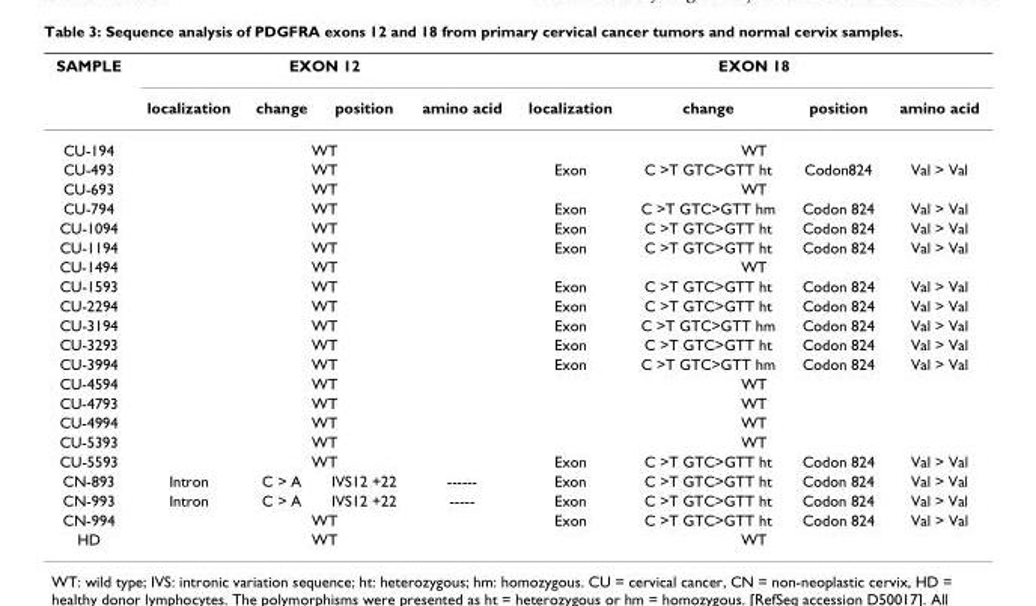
<table><thead><tr><td rowspan="2">SAMPLE</td><td colspan="4">EXON 12</td><td colspan="4">EXON 18</td></tr><tr><td>localization</td><td>change</td><td>position</td><td>amino acid</td><td>localization</td><td>change</td><td>position</td><td>amino acid</td></tr></thead><tbody><tr><td>CU-194</td><td colspan="4">WT</td><td colspan="4">WT</td></tr><tr><td>CU-493</td><td colspan="4">WT</td><td>Exon</td><td>C &gt;T GTC&gt;GTT ht</td><td>Codon824</td><td>Val &gt; Val</td></tr><tr><td>CU-693</td><td colspan="4">WT</td><td colspan="4">WT</td></tr><tr><td>CU-794</td><td colspan="4">WT</td><td>Exon</td><td>C &gt;T GTC&gt;GTT hm</td><td>Codon 824</td><td>Val &gt; Val</td></tr><tr><td>CU-1094</td><td colspan="4">WT</td><td>Exon</td><td>C &gt;T GTC&gt;GTT ht</td><td>Codon 824</td><td>Val &gt; Val</td></tr><tr><td>CU-1194</td><td colspan="4">WT</td><td>Exon</td><td>C &gt;T GTC&gt;GTT ht</td><td>Codon 824</td><td>Val &gt; Val</td></tr><tr><td>CU-1494</td><td colspan="4">WT</td><td colspan="4">WT</td></tr><tr><td>CU-1593</td><td colspan="4">WT</td><td>Exon</td><td>C &gt;T GTC&gt;GTT ht</td><td>Codon 824</td><td>Val &gt; Val</td></tr><tr><td>CU-2294</td><td colspan="4">WT</td><td>Exon</td><td>C &gt;T GTC&gt;GTT ht</td><td>Codon 824</td><td>Val &gt; Val</td></tr><tr><td>CU-3194</td><td colspan="4">WT</td><td>Exon</td><td>C &gt;T GTC&gt;GTT hm</td><td>Codon 824</td><td>Val &gt; Val</td></tr><tr><td>CU-3293</td><td colspan="4">WT</td><td>Exon</td><td>C &gt;T GTC&gt;GTT ht</td><td>Codon 824</td><td>Val &gt; Val</td></tr><tr><td>CU-3994</td><td colspan="4">WT</td><td>Exon</td><td>C &gt;T GTC&gt;GTT hm</td><td>Codon 824</td><td>Val &gt; Val</td></tr><tr><td>CU-4594</td><td colspan="4">WT</td><td colspan="4">WT</td></tr><tr><td>CU-4793</td><td colspan="4">WT</td><td colspan="4">WT</td></tr><tr><td>CU-4994</td><td colspan="4">WT</td><td colspan="4">WT</td></tr><tr><td>CU-5393</td><td colspan="4">WT</td><td colspan="4">WT</td></tr><tr><td>CU-5593</td><td colspan="4">WT</td><td>Exon</td><td>C &gt;T GTC&gt;GTT ht</td><td>Codon 824</td><td>Val &gt; Val</td></tr><tr><td>CN-893</td><td>Intron</td><td>C &gt; A</td><td>IVS12 +22</td><td>------</td><td>Exon</td><td>C &gt;T GTC&gt;GTT ht</td><td>Codon 824</td><td>Val &gt; Val</td></tr><tr><td>CN-993</td><td>Intron</td><td>C &gt; A</td><td>IVS12 +22</td><td>-----</td><td>Exon</td><td>C &gt;T GTC&gt;GTT ht</td><td>Codon 824</td><td>Val &gt; Val</td></tr><tr><td>CN-994</td><td colspan="4">WT</td><td>Exon</td><td>C &gt;T GTC&gt;GTT ht</td><td>Codon 824</td><td>Val &gt; Val</td></tr><tr><td>HD</td><td colspan="4">WT</td><td colspan="4">WT</td></tr></tbody></table>